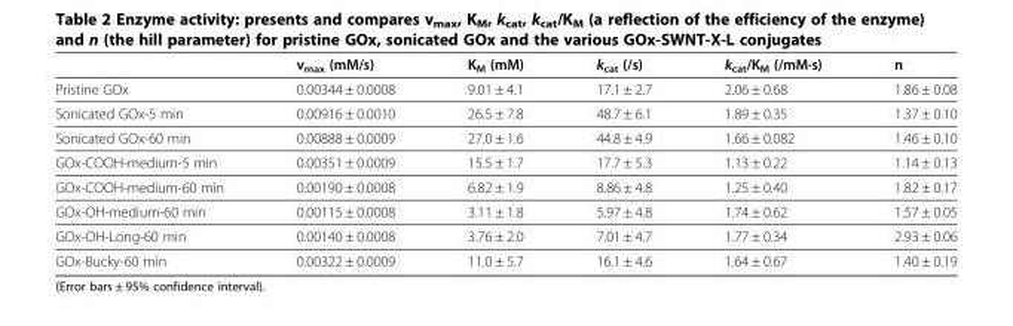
<table><thead><tr><td></td><td>v<sub>max</sub> (mM/s)</td><td>K<sub>M</sub> (mM)</td><td>k<sub>cat</sub> (/s)</td><td>k<sub>cat</sub>/K<sub>M</sub> (/mM·s)</td><td>n</td></tr></thead><tbody><tr><td>Pristine GOx</td><td>0.00344 ± 0.0008</td><td>9.01 ± 4.1</td><td>17.1 ± 2.7</td><td>2.06 ± 0.68</td><td>1.86 ± 0.08</td></tr><tr><td>Sonicated GOx-5 min</td><td>0.00916 ± 0.0010</td><td>26.5 ± 7.8</td><td>48.7 ± 6.1</td><td>1.89 ± 0.35</td><td>1.37 ± 0.10</td></tr><tr><td>Sonicated GOx-60 min</td><td>0.00888 ± 0.0009</td><td>27.0 ± 1.6</td><td>44.8 ± 4.9</td><td>1.66 ± 0.082</td><td>1.46 ± 0.10</td></tr><tr><td>GOx-COOH-medium-5 min</td><td>0.00351 ± 0.0009</td><td>15.5 ± 1.7</td><td>17.7 ± 5.3</td><td>1.13 ± 0.22</td><td>1.14 ± 0.13</td></tr><tr><td>GOx-COOH-medium-60 min</td><td>0.00190 ± 0.0008</td><td>6.82 ± 1.9</td><td>8.86 ± 4.8</td><td>1.25 ± 0.40</td><td>1.82 ± 0.17</td></tr><tr><td>GOx-OH-medium-60 min</td><td>0.00115 ± 0.0008</td><td>3.11 ± 1.8</td><td>5.97 ± 4.8</td><td>1.74 ± 0.62</td><td>1.57 ± 0.05</td></tr><tr><td>GOx-OH-Long-60 min</td><td>0.00140 ± 0.0008</td><td>3.76 ± 2.0</td><td>7.01 ± 4.7</td><td>1.77 ± 0.34</td><td>2.93 ± 0.06</td></tr><tr><td>GOx-Bucky-60 min</td><td>0.00322 ± 0.0009</td><td>11.0 ± 5.7</td><td>16.1 ± 4.6</td><td>1.64 ± 0.67</td><td>1.40 ± 0.19</td></tr></tbody></table>